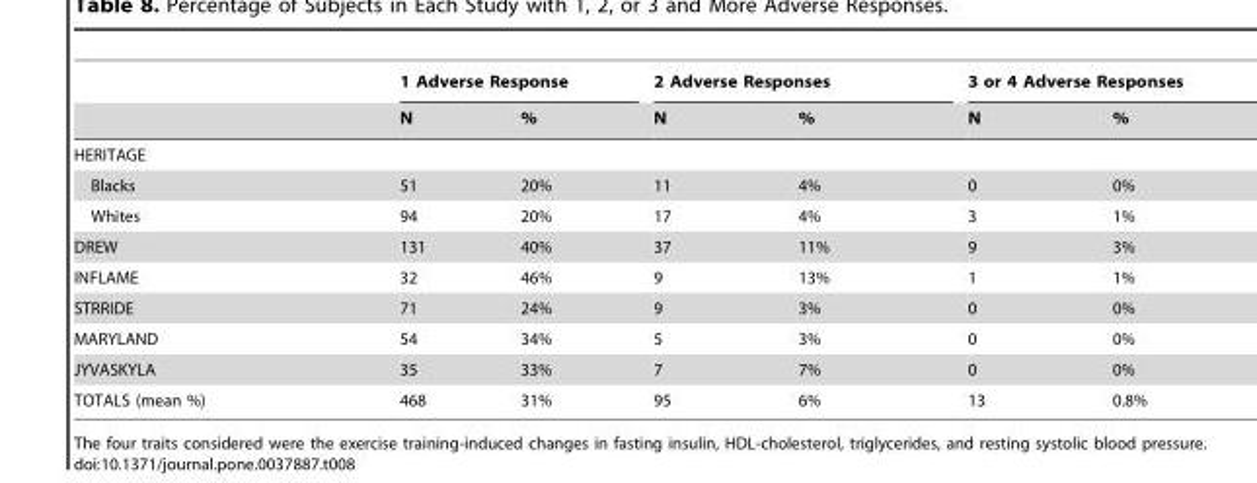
<table><thead><tr><td rowspan="2"></td><td colspan="2">1 Adverse Response</td><td colspan="2">2 Adverse Responses</td><td colspan="2">3 or 4 Adverse Responses</td></tr><tr><td>N</td><td>%</td><td>N</td><td>%</td><td>N</td><td>%</td></tr></thead><tbody><tr><td colspan="7">HERITAGE</td></tr><tr><td>Blacks</td><td>51</td><td>20%</td><td>11</td><td>4%</td><td>0</td><td>0%</td></tr><tr><td>Whites</td><td>94</td><td>20%</td><td>17</td><td>4%</td><td>3</td><td>1%</td></tr><tr><td>DREW</td><td>131</td><td>40%</td><td>37</td><td>11%</td><td>9</td><td>3%</td></tr><tr><td>INFLAME</td><td>32</td><td>46%</td><td>9</td><td>13%</td><td>1</td><td>1%</td></tr><tr><td>STRRIDE</td><td>71</td><td>24%</td><td>9</td><td>3%</td><td>0</td><td>0%</td></tr><tr><td>MARYLAND</td><td>54</td><td>34%</td><td>5</td><td>3%</td><td>0</td><td>0%</td></tr><tr><td>JYVASKYLA</td><td>35</td><td>33%</td><td>7</td><td>7%</td><td>0</td><td>0%</td></tr><tr><td>TOTALS (mean %)</td><td>468</td><td>31%</td><td>95</td><td>6%</td><td>13</td><td>0.8%</td></tr></tbody></table>